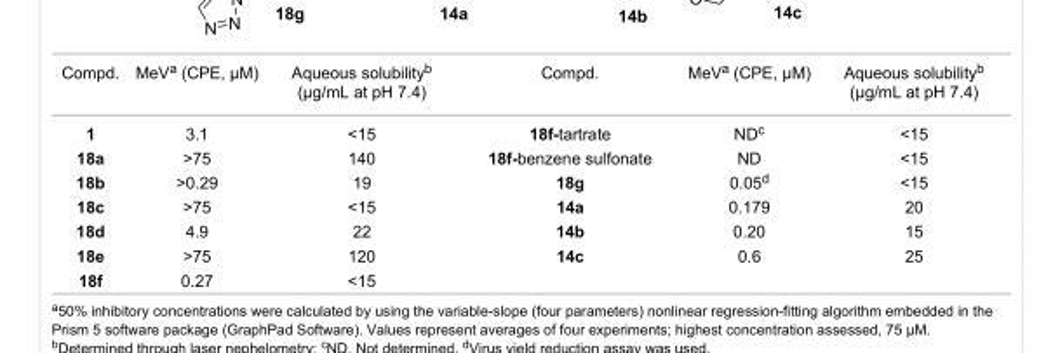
<table><tbody><tr><td>Compd.</td><td>MeV<sup>a</sup> (CPE, µM)</td><td>Aqueous solubility<sup>b</sup> (µg/mL at pH 7.4)</td><td>Compd.</td><td>MeV<sup>a</sup> (CPE, µM)</td><td>Aqueous solubility<sup>b</sup> (µg/mL at pH 7.4)</td></tr><tr><td>1</td><td>3.1</td><td>&lt;15</td><td>18f-tartrate</td><td>ND<sup>c</sup></td><td>&lt;15</td></tr><tr><td>18a</td><td>&gt;75</td><td>140</td><td>18f-benzene sulfonate</td><td>ND</td><td>&lt;15</td></tr><tr><td>18b</td><td>&gt;0.29</td><td>19</td><td>18g</td><td>0.05<sup>d</sup></td><td>&lt;15</td></tr><tr><td>18c</td><td>&gt;75</td><td>&lt;15</td><td>14a</td><td>0.179</td><td>20</td></tr><tr><td>18d</td><td>4.9</td><td>22</td><td>14b</td><td>0.20</td><td>15</td></tr><tr><td>18e</td><td>&gt;75</td><td>120</td><td>14c</td><td>0.6</td><td>25</td></tr><tr><td>18f</td><td>0.27</td><td>&lt;15</td><td></td><td></td><td></td></tr></tbody></table>